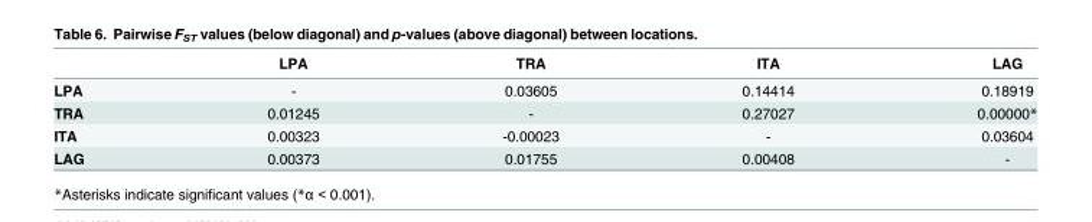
<table><thead><tr><td></td><td>LPA</td><td>TRA</td><td>ITA</td><td>LAG</td></tr></thead><tbody><tr><td>LPA</td><td>-</td><td>0.03605</td><td>0.14414</td><td>0.18919</td></tr><tr><td>TRA</td><td>0.01245</td><td>-</td><td>0.27027</td><td>0.00000*</td></tr><tr><td>ITA</td><td>0.00323</td><td>-0.00023</td><td>-</td><td>0.03604</td></tr><tr><td>LAG</td><td>0.00373</td><td>0.01755</td><td>0.00408</td><td>-</td></tr></tbody></table>